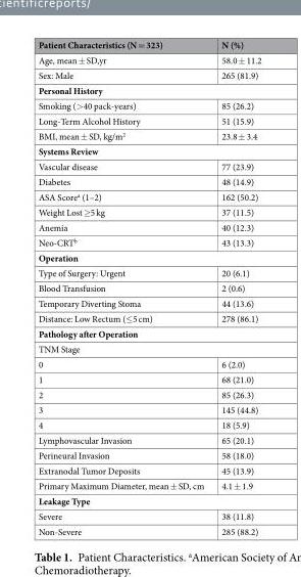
<table><thead><tr><td>Patient Characteristics (N = 323)</td><td>N (%)</td></tr></thead><tbody><tr><td>Age, mean ± SD,yr</td><td>58.0 ± 11.2</td></tr><tr><td>Sex: Male</td><td>265 (81.9)</td></tr><tr><td colspan="2">Personal History</td></tr><tr><td>Smoking (&gt;40 pack-years)</td><td>85 (26.2)</td></tr><tr><td>Long-Term Alcohol History</td><td>51 (15.9)</td></tr><tr><td>BMI, mean ± SD, kg/m<sup>2</sup></td><td>23.8 ± 3.4</td></tr><tr><td colspan="2">Systems Review</td></tr><tr><td>Vascular disease</td><td>77 (23.9)</td></tr><tr><td>Diabetes</td><td>48 (14.9)</td></tr><tr><td>ASA Score<sup>a</sup> (1–2)</td><td>162 (50.2)</td></tr><tr><td>Weight Lost ≥5 kg</td><td>37 (11.5)</td></tr><tr><td>Anemia</td><td>40 (12.3)</td></tr><tr><td>Neo-CRT<sup>b</sup></td><td>43 (13.3)</td></tr><tr><td colspan="2">Operation</td></tr><tr><td>Type of Surgery: Urgent</td><td>20 (6.1)</td></tr><tr><td>Blood Transfusion</td><td>2 (0.6)</td></tr><tr><td>Temporary Diverting Stoma</td><td>44 (13.6)</td></tr><tr><td>Distance: Low Rectum (≤5 cm)</td><td>278 (86.1)</td></tr><tr><td colspan="2">Pathology after Operation</td></tr><tr><td colspan="2">TNM Stage</td></tr><tr><td>0</td><td>6 (2.0)</td></tr><tr><td>1</td><td>68 (21.0)</td></tr><tr><td>2</td><td>85 (26.3)</td></tr><tr><td>3</td><td>145 (44.8)</td></tr><tr><td>4</td><td>18 (5.9)</td></tr><tr><td>Lymphovascular Invasion</td><td>65 (20.1)</td></tr><tr><td>Perineural Invasion</td><td>58 (18.0)</td></tr><tr><td>Extranodal Tumor Deposits</td><td>45 (13.9)</td></tr><tr><td>Primary Maximum Diameter, mean ± SD, cm</td><td>4.1 ± 1.9</td></tr><tr><td colspan="2">Leakage Type</td></tr><tr><td>Severe</td><td>38 (11.8)</td></tr><tr><td>Non-Severe</td><td>285 (88.2)</td></tr></tbody></table>